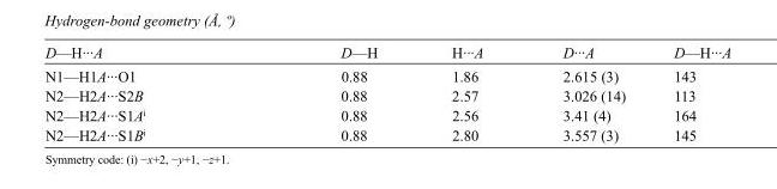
<table><tbody><tr><td>D—H···A</td><td>D—H</td><td>H···A</td><td>D···A</td><td>D—H···A</td></tr><tr><td>N1—H1A···O1</td><td>0.88</td><td>1.86</td><td>2.615 (3)</td><td>143</td></tr><tr><td>N2—H2A···S2B</td><td>0.88</td><td>2.57</td><td>3.026 (14)</td><td>113</td></tr><tr><td>N2—H2A···S1A<sup>i</sup></td><td>0.88</td><td>2.56</td><td>3.41 (4)</td><td>164</td></tr><tr><td>N2—H2A···S1B<sup>i</sup></td><td>0.88</td><td>2.80</td><td>3.557 (3)</td><td>145</td></tr></tbody></table>